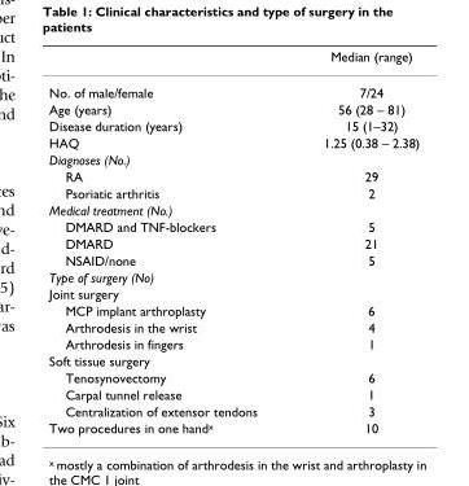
<table><thead><tr><td></td><td>Median (range)</td></tr></thead><tbody><tr><td>No. of male/female</td><td>7/24</td></tr><tr><td>Age (years)</td><td>56 (28 – 81)</td></tr><tr><td>Disease duration (years)</td><td>15 (1–32)</td></tr><tr><td>HAQ</td><td>1.25 (0.38 – 2.38)</td></tr><tr><td colspan="2">Diagnoses (No.)</td></tr><tr><td>RA</td><td>29</td></tr><tr><td>Psoriatic arthritis</td><td>2</td></tr><tr><td colspan="2">Medical treatment (No.)</td></tr><tr><td>DMARD and TNF-blockers</td><td>5</td></tr><tr><td>DMARD</td><td>21</td></tr><tr><td>NSAID/none</td><td>5</td></tr><tr><td colspan="2">Type of surgery (No)</td></tr><tr><td colspan="2">Joint surgery</td></tr><tr><td>MCP implant arthroplasty</td><td>6</td></tr><tr><td>Arthrodesis in the wrist</td><td>4</td></tr><tr><td>Arthrodesis in fingers</td><td>1</td></tr><tr><td colspan="2">Soft tissue surgery</td></tr><tr><td>Tenosynovectomy</td><td>6</td></tr><tr><td>Carpal tunnel release</td><td>1</td></tr><tr><td>Centralization of extensor tendons</td><td>3</td></tr><tr><td>Two procedures in one hand<sup>x</sup></td><td>10</td></tr></tbody></table>